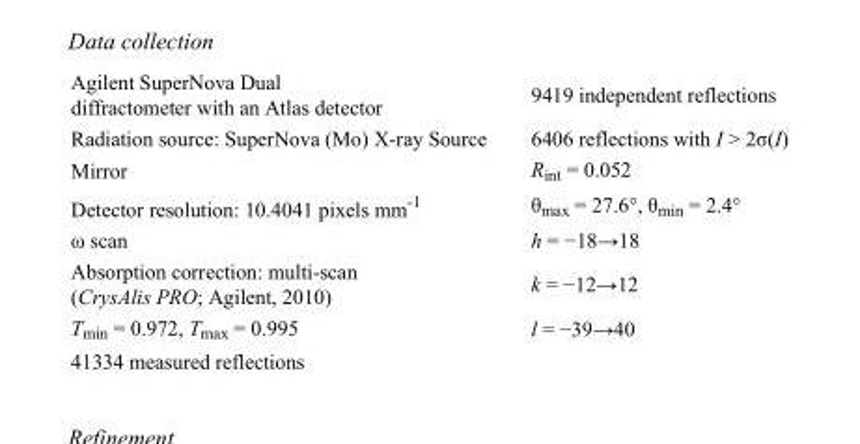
<table><tbody><tr><td>Agilent SuperNova Dual diffractometer with an Atlas detector</td><td>9419 independent reflections</td></tr><tr><td>Radiation source: SuperNova (Mo) X-ray Source</td><td>6406 reflections with I &gt; 2σ(I)</td></tr><tr><td>Mirror</td><td>R<sub>int</sub> = 0.052</td></tr><tr><td>Detector resolution: 10.4041 pixels mm<sup>-1</sup></td><td>θ<sub>max</sub> = 27.6°, θ<sub>min</sub> = 2.4°</td></tr><tr><td>ω scan</td><td>h = −18→18</td></tr><tr><td>Absorption correction: multi-scan (CrysAlis PRO; Agilent, 2010)</td><td>k = −12→12</td></tr><tr><td>T<sub>min</sub> = 0.972, T<sub>max</sub> = 0.995</td><td>l = −39→40</td></tr><tr><td>41334 measured reflections</td><td></td></tr></tbody></table>